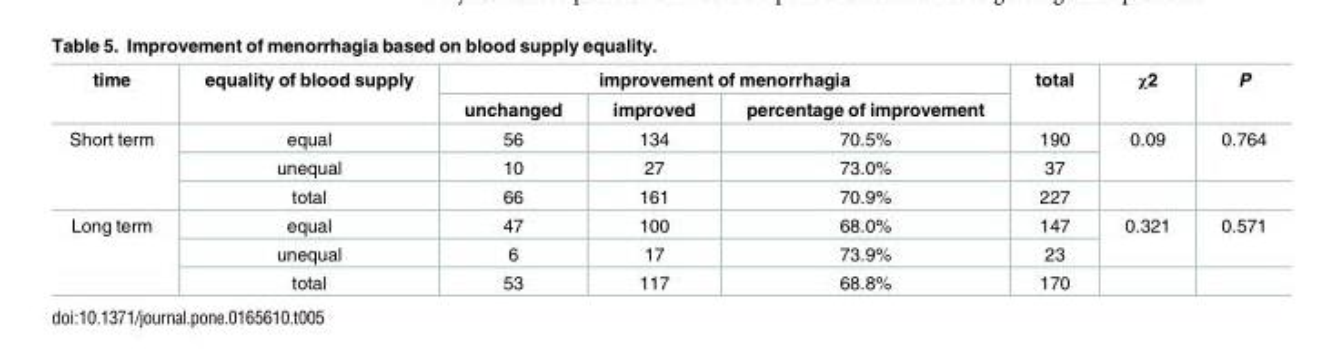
<table><thead><tr><td rowspan="2">time</td><td rowspan="2">equality of blood supply</td><td colspan="3">improvement of menorrhagia</td><td rowspan="2">total</td><td rowspan="2">χ2</td><td rowspan="2">P</td></tr><tr><td>unchanged</td><td>improved</td><td>percentage of improvement</td></tr></thead><tbody><tr><td rowspan="3">Short term</td><td>equal</td><td>56</td><td>134</td><td>70.5%</td><td>190</td><td rowspan="2">0.09</td><td rowspan="2">0.764</td></tr><tr><td>unequal</td><td>10</td><td>27</td><td>73.0%</td><td>37</td></tr><tr><td>total</td><td>66</td><td>161</td><td>70.9%</td><td>227</td><td></td><td></td></tr><tr><td rowspan="3">Long term</td><td>equal</td><td>47</td><td>100</td><td>68.0%</td><td>147</td><td rowspan="2">0.321</td><td rowspan="2">0.571</td></tr><tr><td>unequal</td><td>6</td><td>17</td><td>73.9%</td><td>23</td></tr><tr><td>total</td><td>53</td><td>117</td><td>68.8%</td><td>170</td><td></td><td></td></tr></tbody></table>